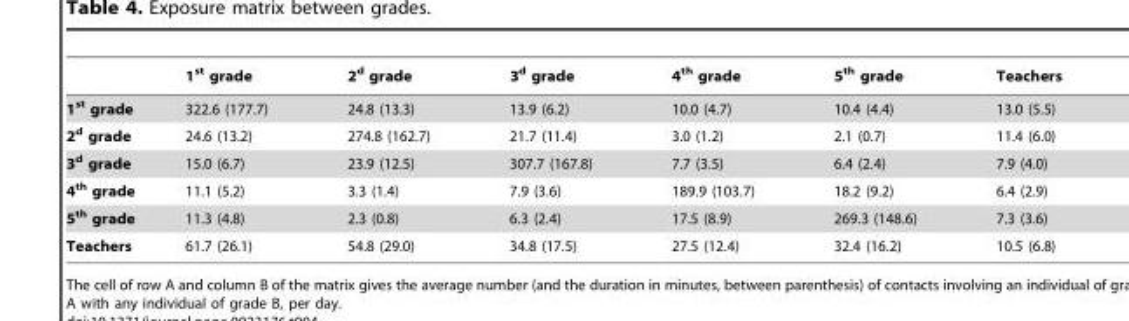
<table><thead><tr><td></td><td>1<sup>st</sup> grade</td><td>2<sup>d</sup> grade</td><td>3<sup>d</sup> grade</td><td>4<sup>th</sup> grade</td><td>5<sup>th</sup> grade</td><td>Teachers</td></tr></thead><tbody><tr><td>1<sup>st</sup> grade</td><td>322.6 (177.7)</td><td>24.8 (13.3)</td><td>13.9 (6.2)</td><td>10.0 (4.7)</td><td>10.4 (4.4)</td><td>13.0 (5.5)</td></tr><tr><td>2<sup>d</sup> grade</td><td>24.6 (13.2)</td><td>274.8 (162.7)</td><td>21.7 (11.4)</td><td>3.0 (1.2)</td><td>2.1 (0.7)</td><td>11.4 (6.0)</td></tr><tr><td>3<sup>d</sup> grade</td><td>15.0 (6.7)</td><td>23.9 (12.5)</td><td>307.7 (167.8)</td><td>7.7 (3.5)</td><td>6.4 (2.4)</td><td>7.9 (4.0)</td></tr><tr><td>4<sup>th</sup> grade</td><td>11.1 (5.2)</td><td>3.3 (1.4)</td><td>7.9 (3.6)</td><td>189.9 (103.7)</td><td>18.2 (9.2)</td><td>6.4 (2.9)</td></tr><tr><td>5<sup>th</sup> grade</td><td>11.3 (4.8)</td><td>2.3 (0.8)</td><td>6.3 (2.4)</td><td>17.5 (8.9)</td><td>269.3 (148.6)</td><td>7.3 (3.6)</td></tr><tr><td>Teachers</td><td>61.7 (26.1)</td><td>54.8 (29.0)</td><td>34.8 (17.5)</td><td>27.5 (12.4)</td><td>32.4 (16.2)</td><td>10.5 (6.8)</td></tr></tbody></table>